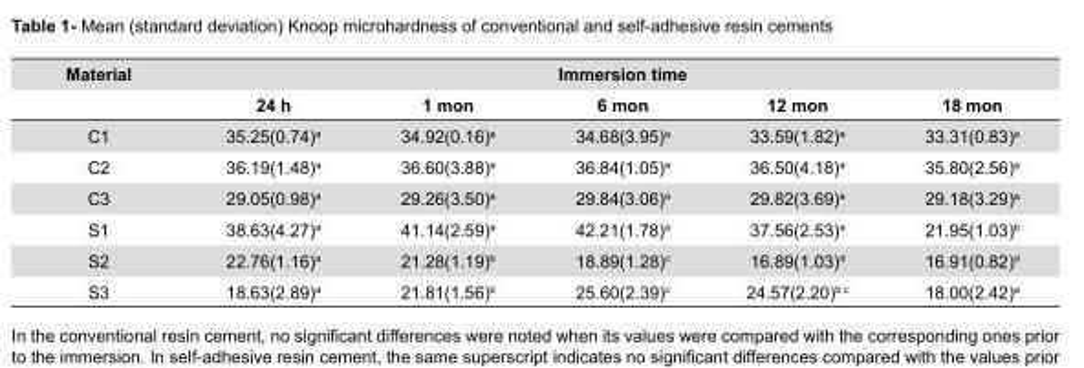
<table><thead><tr><td rowspan="2">Material</td><td colspan="5">Immersion time</td></tr><tr><td>24 h</td><td>1 mon</td><td>6 mon</td><td>12 mon</td><td>18 mon</td></tr></thead><tbody><tr><td>C1</td><td>35.25(0.74)<sup>a</sup></td><td>34.92(0.16)<sup>a</sup></td><td>34.68(3.95)<sup>a</sup></td><td>33.59(1.82)<sup>a</sup></td><td>33.31(0.83)<sup>a</sup></td></tr><tr><td>C2</td><td>36.19(1.48)<sup>a</sup></td><td>36.60(3.88)<sup>a</sup></td><td>36.84(1.05)<sup>a</sup></td><td>36.50(4.18)<sup>a</sup></td><td>35.80(2.56)<sup>a</sup></td></tr><tr><td>C3</td><td>29.05(0.98)<sup>a</sup></td><td>29.26(3.50)<sup>a</sup></td><td>29.84(3.06)<sup>a</sup></td><td>29.82(3.69)<sup>a</sup></td><td>29.18(3.29)<sup>a</sup></td></tr><tr><td>S1</td><td>38.63(4.27)<sup>a</sup></td><td>41.14(2.59)<sup>a</sup></td><td>42.21(1.78)<sup>a</sup></td><td>37.56(2.53)<sup>a</sup></td><td>21.95(1.03)<sup>b</sup></td></tr><tr><td>S2</td><td>22.76(1.16)<sup>a</sup></td><td>21.28(1.19)<sup>b</sup></td><td>18.89(1.28)<sup>c</sup></td><td>16.89(1.03)<sup>d</sup></td><td>16.91(0.82)<sup>d</sup></td></tr><tr><td>S3</td><td>18.63(2.89)<sup>a</sup></td><td>21.81(1.56)<sup>b</sup></td><td>25.60(2.39)<sup>c</sup></td><td>24.57(2.20)b,c</td><td>18.00(2.42)<sup>a</sup></td></tr></tbody></table>